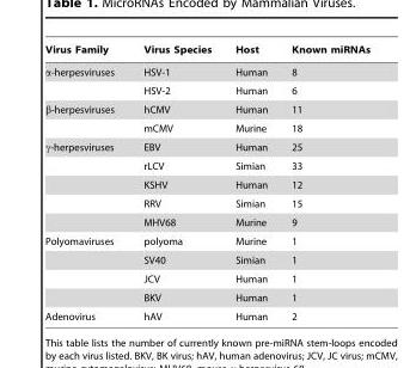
<table><thead><tr><td>Virus Family</td><td>Virus Species</td><td>Host</td><td>Known miRNAs</td></tr></thead><tbody><tr><td rowspan="2">α-herpesviruses</td><td>HSV-1</td><td>Human</td><td>8</td></tr><tr><td>HSV-2</td><td>Human</td><td>6</td></tr><tr><td rowspan="2">β-herpesviruses</td><td>hCMV</td><td>Human</td><td>11</td></tr><tr><td>mCMV</td><td>Murine</td><td>18</td></tr><tr><td rowspan="5">γ-herpesviruses</td><td>EBV</td><td>Human</td><td>25</td></tr><tr><td>rLCV</td><td>Simian</td><td>33</td></tr><tr><td>KSHV</td><td>Human</td><td>12</td></tr><tr><td>RRV</td><td>Simian</td><td>15</td></tr><tr><td>MHV68</td><td>Murine</td><td>9</td></tr><tr><td rowspan="4">Polyomaviruses</td><td>polyoma</td><td>Murine</td><td>1</td></tr><tr><td>SV40</td><td>Simian</td><td>1</td></tr><tr><td>JCV</td><td>Human</td><td>1</td></tr><tr><td>BKV</td><td>Human</td><td>1</td></tr><tr><td>Adenovirus</td><td>hAV</td><td>Human</td><td>2</td></tr></tbody></table>